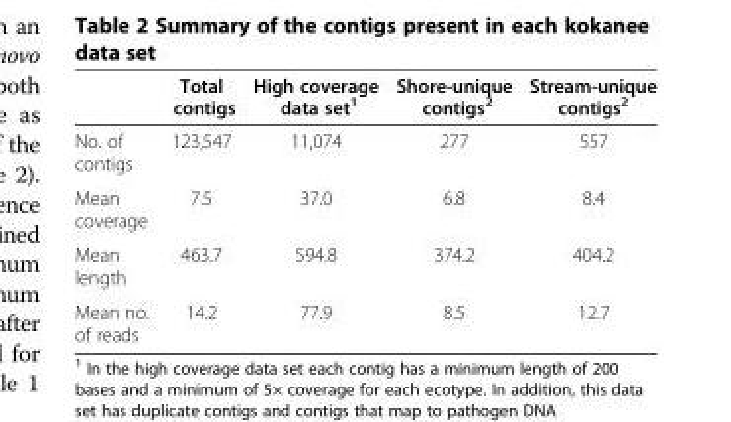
<table><thead><tr><td></td><td>Total contigs</td><td>High coverage data set<sup>1</sup></td><td>Shore-unique contigs<sup>2</sup></td><td>Stream-unique contigs<sup>2</sup></td></tr></thead><tbody><tr><td>No. of contigs</td><td>123,547</td><td>11,074</td><td>277</td><td>557</td></tr><tr><td>Mean coverage</td><td>7.5</td><td>37.0</td><td>6.8</td><td>8.4</td></tr><tr><td>Mean length</td><td>463.7</td><td>594.8</td><td>374.2</td><td>404.2</td></tr><tr><td>Mean no. of reads</td><td>14.2</td><td>77.9</td><td>8.5</td><td>12.7</td></tr></tbody></table>